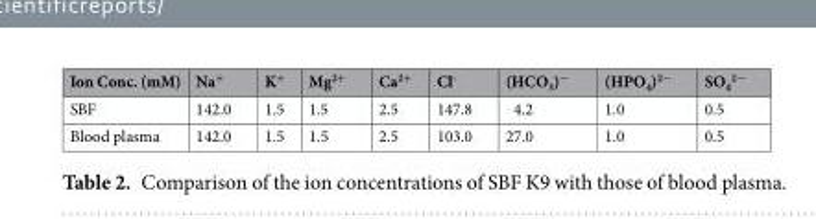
<table><thead><tr><td>Ion Conc. (mM)</td><td>Na<sup>+</sup></td><td>K<sup>+</sup></td><td>Mg<sup>2+</sup></td><td>Ca<sup>2+</sup></td><td>Cl<sup>-</sup></td><td>(HCO<sub>3</sub>)<sup>−</sup></td><td>(HPO<sub>4</sub>)<sup>2−</sup></td><td>SO<sub>4</sub> <sup>2−</sup></td></tr></thead><tbody><tr><td>SBF</td><td>142.0</td><td>1.5</td><td>1.5</td><td>2.5</td><td>147.8</td><td>4.2</td><td>1.0</td><td>0.5</td></tr><tr><td>Blood plasma</td><td>142.0</td><td>1.5</td><td>1.5</td><td>2.5</td><td>103.0</td><td>27.0</td><td>1.0</td><td>0.5</td></tr></tbody></table>